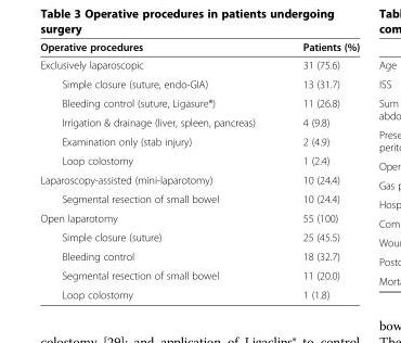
<table><thead><tr><td>Operative procedures</td><td>Patients (%)</td></tr></thead><tbody><tr><td>Exclusively laparoscopic</td><td>31 (75.6)</td></tr><tr><td>Simple closure (suture, endo-GIA)</td><td>13 (31.7)</td></tr><tr><td>Bleeding control (suture, Ligasure®)</td><td>11 (26.8)</td></tr><tr><td>Irrigation &amp; drainage (liver, spleen, pancreas)</td><td>4 (9.8)</td></tr><tr><td>Examination only (stab injury)</td><td>2 (4.9)</td></tr><tr><td>Loop colostomy</td><td>1 (2.4)</td></tr><tr><td>Laparoscopy-assisted (mini-laparotomy)</td><td>10 (24.4)</td></tr><tr><td>Segmental resection of small bowel</td><td>10 (24.4)</td></tr><tr><td>Open laparotomy</td><td>55 (100)</td></tr><tr><td>Simple closure (suture)</td><td>25 (45.5)</td></tr><tr><td>Bleeding control</td><td>18 (32.7)</td></tr><tr><td>Segmental resection of small bowel</td><td>11 (20.0)</td></tr><tr><td>Loop colostomy</td><td>1 (1.8)</td></tr></tbody></table>